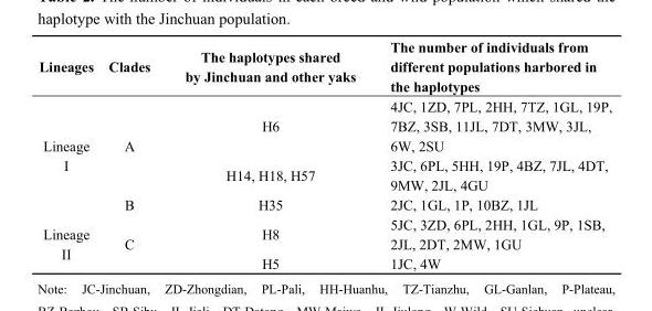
<table><thead><tr><td>Lineages</td><td>Clades</td><td>The haplotypes shared by Jinchuan and other yaks</td><td>The number of individuals from different populations harbored in the haplotypes</td></tr></thead><tbody><tr><td rowspan="3">Lineage I</td><td rowspan="2">A</td><td>H6</td><td>4JC, 1ZD, 7PL, 2HH, 7TZ, 1GL, 19P, 7BZ, 3SB, 11JL, 7DT, 3MW, 3JL, 6W, 2SU</td></tr><tr><td>H14, H18, H57</td><td>3JC, 6PL, 5HH, 19P, 4BZ, 7JL, 4DT, 9MW, 2JL, 4GU</td></tr><tr><td>B</td><td>H35</td><td>2JC, 1GL, 1P, 10BZ, 1JL</td></tr><tr><td rowspan="2">Lineage II</td><td rowspan="2">C</td><td>H8</td><td>5JC, 3ZD, 6PL, 2HH, 1GL, 9P, 1SB, 2JL, 2DT, 2MW, 1GU</td></tr><tr><td>H5</td><td>1JC, 4W</td></tr></tbody></table>